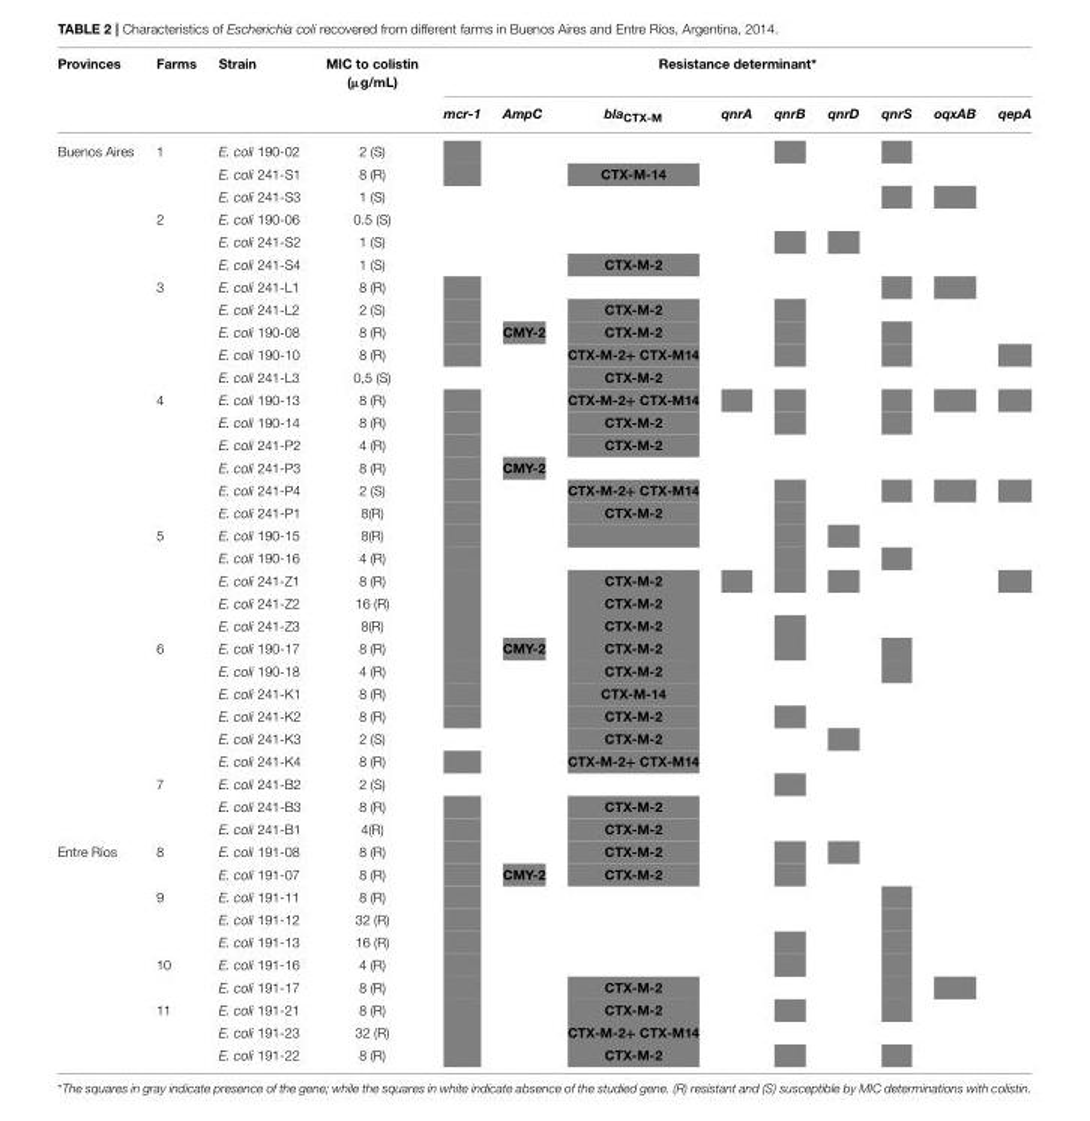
<table><thead><tr><td rowspan="2">Provinces</td><td rowspan="2">Farms</td><td rowspan="2">Strain</td><td rowspan="2">MIC to colistin (µg/mL)</td><td colspan="9">Resistance determinant*</td></tr><tr><td>mcr-1</td><td>AmpC</td><td>bla<sub>CTX-M</sub></td><td>qnrA</td><td>qnrB</td><td>qnrD</td><td>qnrS</td><td>oqxAB</td><td>qepA</td></tr></thead><tbody><tr><td rowspan="31">Buenos Aires</td><td>1</td><td>E. coli 190-02</td><td>2 (S)</td><td></td><td></td><td></td><td></td><td></td><td></td><td></td><td></td><td></td></tr><tr><td></td><td>E. coli 241-S1</td><td>8 (R)</td><td></td><td></td><td>CTX-M-14</td><td></td><td></td><td></td><td></td><td></td><td></td></tr><tr><td></td><td>E. coli 241-S3</td><td>1 (S)</td><td></td><td></td><td></td><td></td><td></td><td></td><td></td><td></td><td></td></tr><tr><td>2</td><td>E. coli 190-06</td><td>0.5 (S)</td><td></td><td></td><td></td><td></td><td></td><td></td><td></td><td></td><td></td></tr><tr><td></td><td>E. coli 241-S2</td><td>1 (S)</td><td></td><td></td><td></td><td></td><td></td><td></td><td></td><td></td><td></td></tr><tr><td></td><td>E. coli 241-S4</td><td>1 (S)</td><td></td><td></td><td>CTX-M-2</td><td></td><td></td><td></td><td></td><td></td><td></td></tr><tr><td>3</td><td>E. coli 241-L1</td><td>8 (R)</td><td></td><td></td><td></td><td></td><td></td><td></td><td></td><td></td><td></td></tr><tr><td></td><td>E. coli 241-L2</td><td>2 (S)</td><td></td><td></td><td>CTX-M-2</td><td></td><td></td><td></td><td></td><td></td><td></td></tr><tr><td></td><td>E. coli 190-08</td><td>8 (R)</td><td></td><td>CMY-2</td><td>CTX-M-2</td><td></td><td></td><td></td><td></td><td></td><td></td></tr><tr><td></td><td>E. coli 190-10</td><td>8 (R)</td><td></td><td></td><td>CTX-M-2+ CTX-M14</td><td></td><td></td><td></td><td></td><td></td><td></td></tr><tr><td></td><td>E. coli 241-L3</td><td>0,5 (S)</td><td></td><td></td><td>CTX-M-2</td><td></td><td></td><td></td><td></td><td></td><td></td></tr><tr><td>4</td><td>E. coli 190-13</td><td>8 (R)</td><td></td><td></td><td>CTX-M-2+ CTX-M14</td><td></td><td></td><td></td><td></td><td></td><td></td></tr><tr><td></td><td>E. coli 190-14</td><td>8 (R)</td><td></td><td></td><td>CTX-M-2</td><td></td><td></td><td></td><td></td><td></td><td></td></tr><tr><td></td><td>E. coli 241-P2</td><td>4 (R)</td><td></td><td></td><td>CTX-M-2</td><td></td><td></td><td></td><td></td><td></td><td></td></tr><tr><td></td><td>E. coli 241-P3</td><td>8 (R)</td><td></td><td>CMY-2</td><td></td><td></td><td></td><td></td><td></td><td></td><td></td></tr><tr><td></td><td>E. coli 241-P4</td><td>2 (S)</td><td></td><td></td><td>CTX-M-2+ CTX-M14</td><td></td><td></td><td></td><td></td><td></td><td></td></tr><tr><td></td><td>E. coli 241-P1</td><td>8(R)</td><td></td><td></td><td>CTX-M-2</td><td></td><td></td><td></td><td></td><td></td><td></td></tr><tr><td>5</td><td>E. coli 190-15</td><td>8(R)</td><td></td><td></td><td></td><td></td><td></td><td></td><td></td><td></td><td></td></tr><tr><td></td><td>E. coli 190-16</td><td>4 (R)</td><td></td><td></td><td></td><td></td><td></td><td></td><td></td><td></td><td></td></tr><tr><td></td><td>E. coli 241-Z1</td><td>8 (R)</td><td></td><td></td><td>CTX-M-2</td><td></td><td></td><td></td><td></td><td></td><td></td></tr><tr><td></td><td>E. coli 241-Z2</td><td>16 (R)</td><td></td><td></td><td>CTX-M-2</td><td></td><td></td><td></td><td></td><td></td><td></td></tr><tr><td></td><td>E. coli 241-Z3</td><td>8(R)</td><td></td><td></td><td>CTX-M-2</td><td></td><td></td><td></td><td></td><td></td><td></td></tr><tr><td>6</td><td>E. coli 190-17</td><td>8 (R)</td><td></td><td>CMY-2</td><td>CTX-M-2</td><td></td><td></td><td></td><td></td><td></td><td></td></tr><tr><td></td><td>E. coli 190-18</td><td>4 (R)</td><td></td><td></td><td>CTX-M-2</td><td></td><td></td><td></td><td></td><td></td><td></td></tr><tr><td></td><td>E. coli 241-K1</td><td>8 (R)</td><td></td><td></td><td>CTX-M-14</td><td></td><td></td><td></td><td></td><td></td><td></td></tr><tr><td></td><td>E. coli 241-K2</td><td>8 (R)</td><td></td><td></td><td>CTX-M-2</td><td></td><td></td><td></td><td></td><td></td><td></td></tr><tr><td></td><td>E. coli 241-K3</td><td>2 (S)</td><td></td><td></td><td>CTX-M-2</td><td></td><td></td><td></td><td></td><td></td><td></td></tr><tr><td></td><td>E. coli 241-K4</td><td>8 (R)</td><td></td><td></td><td>CTX-M-2+ CTX-M14</td><td></td><td></td><td></td><td></td><td></td><td></td></tr><tr><td>7</td><td>E. coli 241-B2</td><td>2 (S)</td><td></td><td></td><td></td><td></td><td></td><td></td><td></td><td></td><td></td></tr><tr><td></td><td>E. coli 241-B3</td><td>8 (R)</td><td></td><td></td><td>CTX-M-2</td><td></td><td></td><td></td><td></td><td></td><td></td></tr><tr><td></td><td>E. coli 241-B1</td><td>4(R)</td><td></td><td></td><td>CTX-M-2</td><td></td><td></td><td></td><td></td><td></td><td></td></tr><tr><td rowspan="10">Entre Ríos</td><td>8</td><td>E. coli 191-08</td><td>8 (R)</td><td></td><td></td><td>CTX-M-2</td><td></td><td></td><td></td><td></td><td></td><td></td></tr><tr><td></td><td>E. coli 191-07</td><td>8 (R)</td><td></td><td>CMY-2</td><td>CTX-M-2</td><td></td><td></td><td></td><td></td><td></td><td></td></tr><tr><td>9</td><td>E. coli 191-11</td><td>8 (R)</td><td></td><td></td><td></td><td></td><td></td><td></td><td></td><td></td><td></td></tr><tr><td></td><td>E. coli 191-12</td><td>32 (R)</td><td></td><td></td><td></td><td></td><td></td><td></td><td></td><td></td><td></td></tr><tr><td></td><td>E. coli 191-13</td><td>16 (R)</td><td></td><td></td><td></td><td></td><td></td><td></td><td></td><td></td><td></td></tr><tr><td>10</td><td>E. coli 191-16</td><td>4 (R)</td><td></td><td></td><td></td><td></td><td></td><td></td><td></td><td></td><td></td></tr><tr><td></td><td>E. coli 191-17</td><td>8 (R)</td><td></td><td></td><td>CTX-M-2</td><td></td><td></td><td></td><td></td><td></td><td></td></tr><tr><td>11</td><td>E. coli 191-21</td><td>8 (R)</td><td></td><td></td><td>CTX-M-2</td><td></td><td></td><td></td><td></td><td></td><td></td></tr><tr><td></td><td>E. coli 191-23</td><td>32 (R)</td><td></td><td></td><td>CTX-M-2+ CTX-M14</td><td></td><td></td><td></td><td></td><td></td><td></td></tr><tr><td></td><td>E. coli 191-22</td><td>8 (R)</td><td></td><td></td><td>CTX-M-2</td><td></td><td></td><td></td><td></td><td></td><td></td></tr></tbody></table>